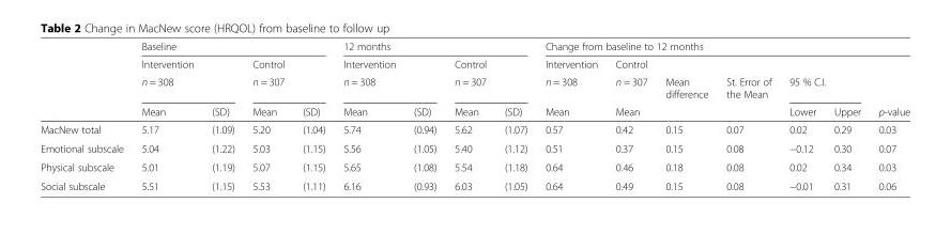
<table><thead><tr><td rowspan="4"></td><td colspan="4">Baseline</td><td colspan="4">12 months</td><td colspan="7">Change from baseline to 12 months</td></tr><tr><td>Intervention</td><td></td><td>Control</td><td></td><td>Intervention</td><td></td><td>Control</td><td></td><td rowspan="3">Intervention n = 308 Mean</td><td rowspan="3">Control n = 307 Mean</td><td rowspan="3">Mean difference</td><td rowspan="3">St. Error of the Mean</td><td></td><td></td><td rowspan="3">p-value</td></tr><tr><td colspan="2">n = 308</td><td colspan="2">n = 307</td><td colspan="2">n = 308</td><td colspan="2">n = 307</td><td colspan="2">95 % C.I.</td></tr><tr><td>Mean</td><td>(SD)</td><td>Mean</td><td>(SD)</td><td>Mean</td><td>(SD)</td><td>Mean</td><td>(SD)</td><td>Lower</td><td>Upper</td></tr></thead><tbody><tr><td>MacNew total</td><td>5.17</td><td>(1.09)</td><td>5.20</td><td>(1.04)</td><td>5.74</td><td>(0.94)</td><td>5.62</td><td>(1.07)</td><td>0.57</td><td>0.42</td><td>0.15</td><td>0.07</td><td>0.02</td><td>0.29</td><td>0.03</td></tr><tr><td>Emotional subscale</td><td>5.04</td><td>(1.22)</td><td>5.03</td><td>(1.15)</td><td>5.56</td><td>(1.05)</td><td>5.40</td><td>(1.12)</td><td>0.51</td><td>0.37</td><td>0.15</td><td>0.08</td><td>−0.12</td><td>0.30</td><td>0.07</td></tr><tr><td>Physical subscale</td><td>5.01</td><td>(1.19)</td><td>5.07</td><td>(1.15)</td><td>5.65</td><td>(1.08)</td><td>5.54</td><td>(1.18)</td><td>0.64</td><td>0.46</td><td>0.18</td><td>0.08</td><td>0.02</td><td>0.34</td><td>0.03</td></tr><tr><td>Social subscale</td><td>5.51</td><td>(1.15)</td><td>5.53</td><td>(1.11)</td><td>6.16</td><td>(0.93)</td><td>6.03</td><td>(1.05)</td><td>0.64</td><td>0.49</td><td>0.15</td><td>0.08</td><td>−0.01</td><td>0.31</td><td>0.06</td></tr></tbody></table>